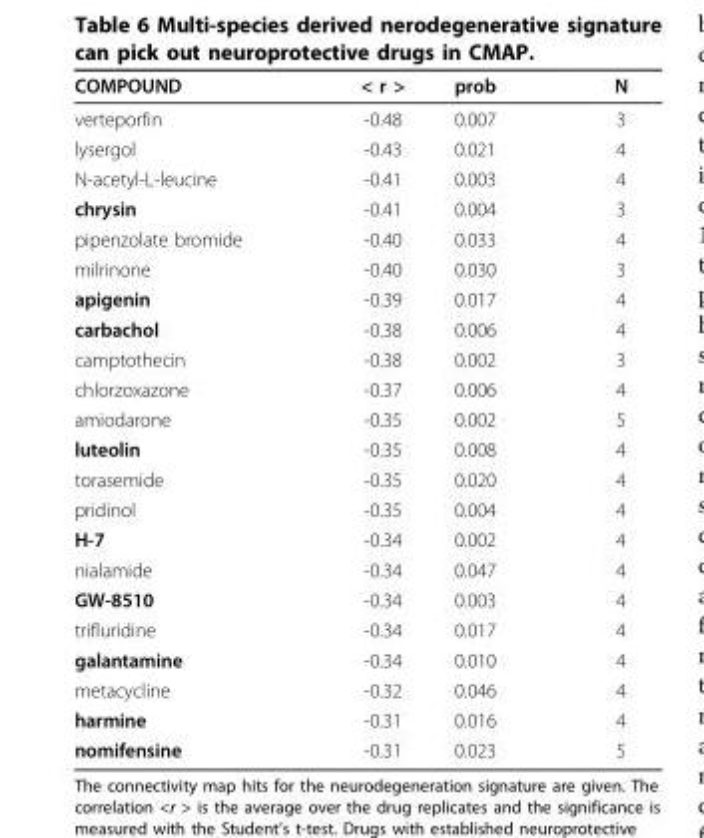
<table><thead><tr><td>COMPOUND</td><td>&lt; r &gt;</td><td>prob</td><td>N</td></tr></thead><tbody><tr><td>verteporfin</td><td>-0.48</td><td>0.007</td><td>3</td></tr><tr><td>lysergol</td><td>-0.43</td><td>0.021</td><td>4</td></tr><tr><td>N-acetyl-L-leucine</td><td>-0.41</td><td>0.003</td><td>4</td></tr><tr><td>chrysin</td><td>-0.41</td><td>0.004</td><td>3</td></tr><tr><td>pipenzolate bromide</td><td>-0.40</td><td>0.033</td><td>4</td></tr><tr><td>milrinone</td><td>-0.40</td><td>0.030</td><td>3</td></tr><tr><td>apigenin</td><td>-0.39</td><td>0.017</td><td>4</td></tr><tr><td>carbachol</td><td>-0.38</td><td>0.006</td><td>4</td></tr><tr><td>camptothecin</td><td>-0.38</td><td>0.002</td><td>3</td></tr><tr><td>chlorzoxazone</td><td>-0.37</td><td>0.006</td><td>4</td></tr><tr><td>amiodarone</td><td>-0.35</td><td>0.002</td><td>5</td></tr><tr><td>luteolin</td><td>-0.35</td><td>0.008</td><td>4</td></tr><tr><td>torasemide</td><td>-0.35</td><td>0.020</td><td>4</td></tr><tr><td>pridinol</td><td>-0.35</td><td>0.004</td><td>4</td></tr><tr><td>H-7</td><td>-0.34</td><td>0.002</td><td>4</td></tr><tr><td>nialamide</td><td>-0.34</td><td>0.047</td><td>4</td></tr><tr><td>GW-8510</td><td>-0.34</td><td>0.003</td><td>4</td></tr><tr><td>trifluridine</td><td>-0.34</td><td>0.017</td><td>4</td></tr><tr><td>galantamine</td><td>-0.34</td><td>0.010</td><td>4</td></tr><tr><td>metacycline</td><td>-0.32</td><td>0.046</td><td>4</td></tr><tr><td>harmine</td><td>-0.31</td><td>0.016</td><td>4</td></tr><tr><td>nomifensine</td><td>-0.31</td><td>0.023</td><td>5</td></tr></tbody></table>